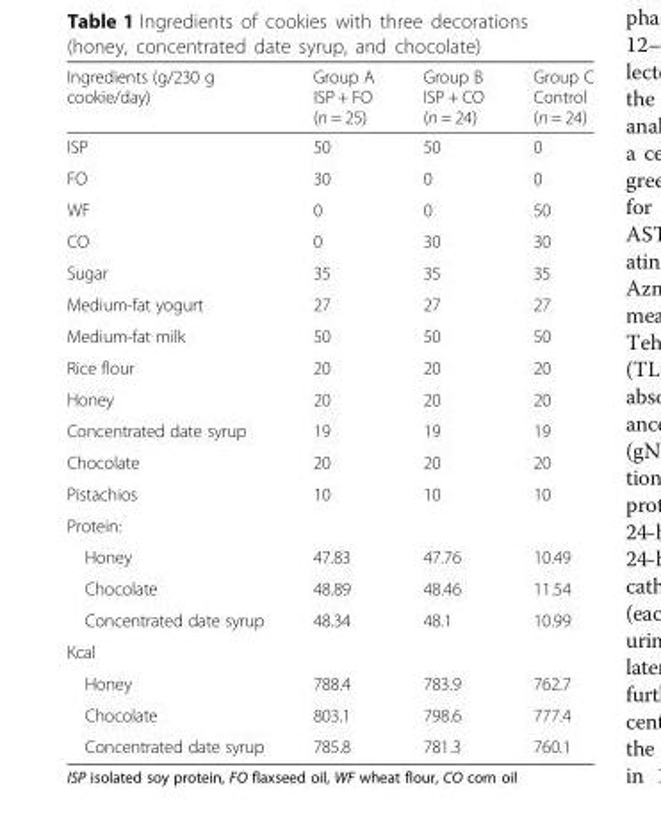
<table><thead><tr><td>Ingredients (g/230 g cookie/day)</td><td>Group A ISP + FO (n = 25)</td><td>Group B ISP + CO (n = 24)</td><td>Group C Control (n = 24)</td></tr></thead><tbody><tr><td>ISP</td><td>50</td><td>50</td><td>0</td></tr><tr><td>FO</td><td>30</td><td>0</td><td>0</td></tr><tr><td>WF</td><td>0</td><td>0</td><td>50</td></tr><tr><td>CO</td><td>0</td><td>30</td><td>30</td></tr><tr><td>Sugar</td><td>35</td><td>35</td><td>35</td></tr><tr><td>Medium-fat yogurt</td><td>27</td><td>27</td><td>27</td></tr><tr><td>Medium-fat milk</td><td>50</td><td>50</td><td>50</td></tr><tr><td>Rice flour</td><td>20</td><td>20</td><td>20</td></tr><tr><td>Honey</td><td>20</td><td>20</td><td>20</td></tr><tr><td>Concentrated date syrup</td><td>19</td><td>19</td><td>19</td></tr><tr><td>Chocolate</td><td>20</td><td>20</td><td>20</td></tr><tr><td>Pistachios</td><td>10</td><td>10</td><td>10</td></tr><tr><td colspan="4">Protein:</td></tr><tr><td>Honey</td><td>47.83</td><td>47.76</td><td>10.49</td></tr><tr><td>Chocolate</td><td>48.89</td><td>48.46</td><td>11.54</td></tr><tr><td>Concentrated date syrup</td><td>48.34</td><td>48.1</td><td>10.99</td></tr><tr><td colspan="4">Kcal</td></tr><tr><td>Honey</td><td>788.4</td><td>783.9</td><td>762.7</td></tr><tr><td>Chocolate</td><td>803.1</td><td>798.6</td><td>777.4</td></tr><tr><td>Concentrated date syrup</td><td>785.8</td><td>781.3</td><td>760.1</td></tr></tbody></table>